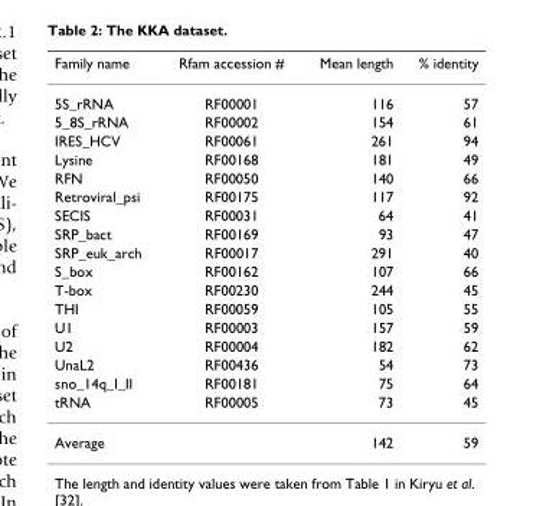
<table><thead><tr><td>Family name</td><td>Rfam accession #</td><td>Mean length</td><td>% identity</td></tr></thead><tbody><tr><td>5S_rRNA</td><td>RF00001</td><td>116</td><td>57</td></tr><tr><td>5_8S_rRNA</td><td>RF00002</td><td>154</td><td>61</td></tr><tr><td>IRES_HCV</td><td>RF00061</td><td>261</td><td>94</td></tr><tr><td>Lysine</td><td>RF00168</td><td>181</td><td>49</td></tr><tr><td>RFN</td><td>RF00050</td><td>140</td><td>66</td></tr><tr><td>Retroviral_psi</td><td>RF00175</td><td>117</td><td>92</td></tr><tr><td>SECIS</td><td>RF00031</td><td>64</td><td>41</td></tr><tr><td>SRP_bact</td><td>RF00169</td><td>93</td><td>47</td></tr><tr><td>SRP_euk_arch</td><td>RF00017</td><td>291</td><td>40</td></tr><tr><td>S_box</td><td>RF00162</td><td>107</td><td>66</td></tr><tr><td>T-box</td><td>RF00230</td><td>244</td><td>45</td></tr><tr><td>THI</td><td>RF00059</td><td>105</td><td>55</td></tr><tr><td>U1</td><td>RF00003</td><td>157</td><td>59</td></tr><tr><td>U2</td><td>RF00004</td><td>182</td><td>62</td></tr><tr><td>UnaL2</td><td>RF00436</td><td>54</td><td>73</td></tr><tr><td>sno_14q_I_II</td><td>RF00181</td><td>75</td><td>64</td></tr><tr><td>tRNA</td><td>RF00005</td><td>73</td><td>45</td></tr><tr><td>Average</td><td></td><td>142</td><td>59</td></tr></tbody></table>